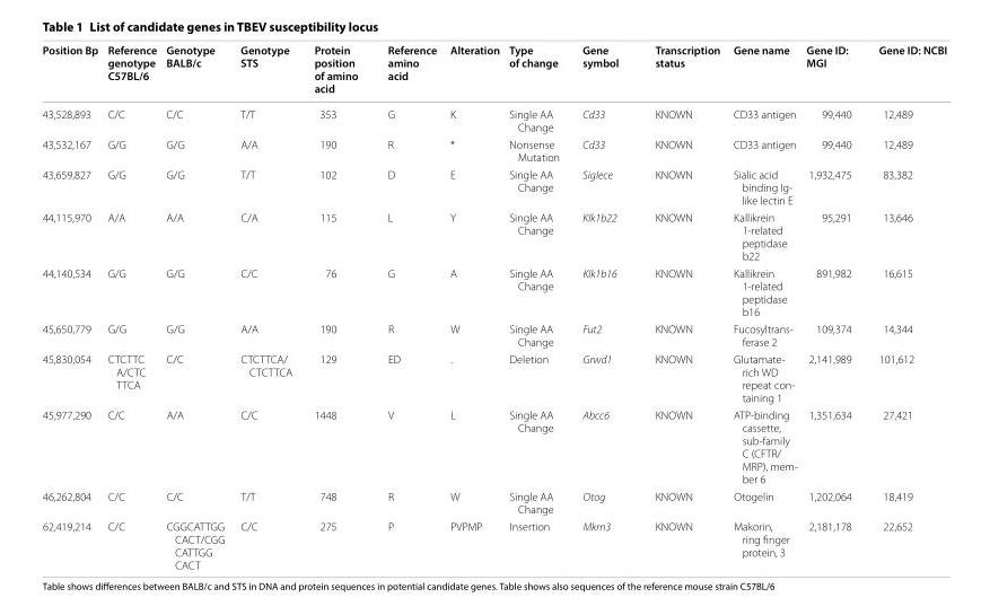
<table><thead><tr><td>Position Bp</td><td>Reference genotype C57BL/6</td><td>Genotype BALB/c</td><td>Genotype STS</td><td>Protein position of amino acid</td><td>Reference amino acid</td><td>Alteration</td><td>Type of change</td><td>Gene symbol</td><td>Transcription status</td><td>Gene name</td><td>Gene ID: MGI</td><td>Gene ID: NCBI</td></tr></thead><tbody><tr><td>43,528,893</td><td>C/C</td><td>C/C</td><td>T/T</td><td>353</td><td>G</td><td>K</td><td>Single AA Change</td><td>Cd33</td><td>KNOWN</td><td>CD33 antigen</td><td>99,440</td><td>12,489</td></tr><tr><td>43,532,167</td><td>G/G</td><td>G/G</td><td>A/A</td><td>190</td><td>R</td><td>*</td><td>Nonsense Mutation</td><td>Cd33</td><td>KNOWN</td><td>CD33 antigen</td><td>99,440</td><td>12,489</td></tr><tr><td>43,659,827</td><td>G/G</td><td>G/G</td><td>T/T</td><td>102</td><td>D</td><td>E</td><td>Single AA Change</td><td>Siglece</td><td>KNOWN</td><td>Sialic acid binding Ig- like lectin E</td><td>1,932,475</td><td>83,382</td></tr><tr><td>44,115,970</td><td>A/A</td><td>A/A</td><td>C/A</td><td>115</td><td>L</td><td>Y</td><td>Single AA Change</td><td>Klk1b22</td><td>KNOWN</td><td>Kallikrein 1-related peptidase b22</td><td>95,291</td><td>13,646</td></tr><tr><td>44,140,534</td><td>G/G</td><td>G/G</td><td>C/C</td><td>76</td><td>G</td><td>A</td><td>Single AA Change</td><td>Klk1b16</td><td>KNOWN</td><td>Kallikrein 1-related peptidase b16</td><td>891,982</td><td>16,615</td></tr><tr><td>45,650,779</td><td>G/G</td><td>G/G</td><td>A/A</td><td>190</td><td>R</td><td>W</td><td>Single AA Change</td><td>Fut2</td><td>KNOWN</td><td>Fucosyltrans- ferase 2</td><td>109,374</td><td>14,344</td></tr><tr><td>45,830,054</td><td>CTC TTC A/CTC TTC A</td><td>C/C</td><td>CTC TTC A/ CTC TTC A</td><td>129</td><td>ED</td><td>.</td><td>Deletion</td><td>Grwd1</td><td>KNOWN</td><td>Glutamate- rich WD repeat con- taining 1</td><td>2,141,989</td><td>101,612</td></tr><tr><td>45,977,290</td><td>C/C</td><td>A/A</td><td>C/C</td><td>1448</td><td>V</td><td>L</td><td>Single AA Change</td><td>Abcc6</td><td>KNOWN</td><td>ATP-binding cassette, sub-family C (CFTR/ MRP), mem- ber 6</td><td>1,351,634</td><td>27,421</td></tr><tr><td>46,262,804</td><td>C/C</td><td>C/C</td><td>T/T</td><td>748</td><td>R</td><td>W</td><td>Single AA Change</td><td>Otog</td><td>KNOWN</td><td>Otogelin</td><td>1,202,064</td><td>18,419</td></tr><tr><td>62,419,214</td><td>C/C</td><td>CGG CAT TGG CAC T/CGG CAT TGG CAC T</td><td>C/C</td><td>275</td><td>P</td><td>PVPMP</td><td>Insertion</td><td>Mkrn3</td><td>KNOWN</td><td>Makorin, ring finger protein, 3</td><td>2,181,178</td><td>22,652</td></tr></tbody></table>